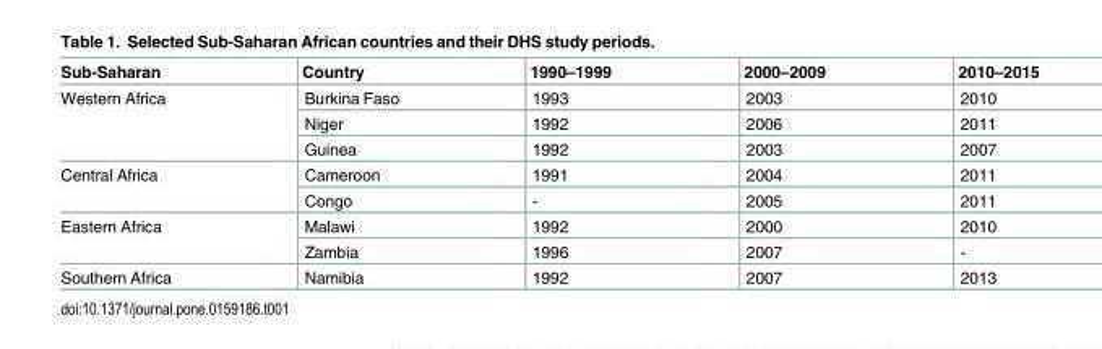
<table><thead><tr><td>Sub-Saharan</td><td>Country</td><td>1990–1999</td><td>2000–2009</td><td>2010–2015</td></tr></thead><tbody><tr><td rowspan="3">Western Africa</td><td>Burkina Faso</td><td>1993</td><td>2003</td><td>2010</td></tr><tr><td>Niger</td><td>1992</td><td>2006</td><td>2011</td></tr><tr><td>Guinea</td><td>1992</td><td>2003</td><td>2007</td></tr><tr><td rowspan="2">Central Africa</td><td>Cameroon</td><td>1991</td><td>2004</td><td>2011</td></tr><tr><td>Congo</td><td>-</td><td>2005</td><td>2011</td></tr><tr><td rowspan="2">Eastern Africa</td><td>Malawi</td><td>1992</td><td>2000</td><td>2010</td></tr><tr><td>Zambia</td><td>1996</td><td>2007</td><td>-</td></tr><tr><td>Southern Africa</td><td>Namibia</td><td>1992</td><td>2007</td><td>2013</td></tr></tbody></table>